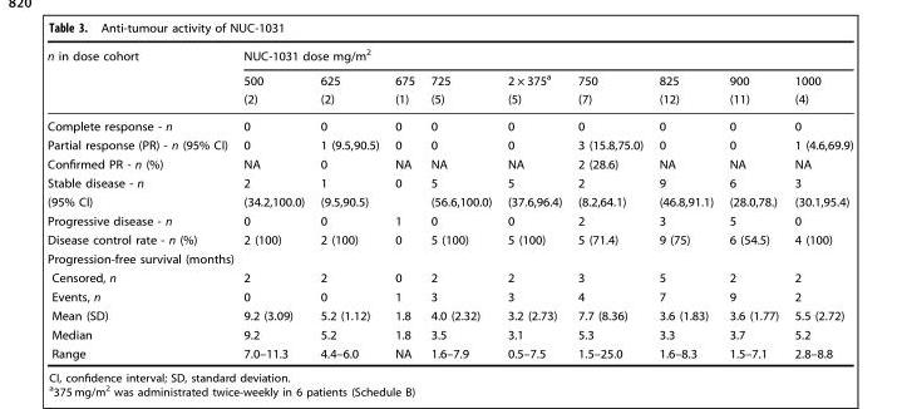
<table><thead><tr><td rowspan="3">n in dose cohort</td><td colspan="9">NUC-1031 dose mg/m<sup>2</sup></td></tr><tr><td rowspan="2">500 (2)</td><td rowspan="2">625 (2)</td><td rowspan="2">675 (1)</td><td rowspan="2">725 (5)</td><td rowspan="2">2 × 375<sup>a</sup> (5)</td><td rowspan="2">750 (7)</td><td rowspan="2">825 (12)</td><td rowspan="2">900 (11)</td><td rowspan="2">1000 (4)</td></tr><tr></tr></thead><tbody><tr><td>Complete response - n</td><td>0</td><td>0</td><td>0</td><td>0</td><td>0</td><td>0</td><td>0</td><td>0</td><td>0</td></tr><tr><td>Partial response (PR) - n (95% CI)</td><td>0</td><td>1 (9.5,90.5)</td><td>0</td><td>0</td><td>0</td><td>3 (15.8,75.0)</td><td>0</td><td>0</td><td>1 (4.6,69.9)</td></tr><tr><td>Confirmed PR - n (%)</td><td>NA</td><td>0</td><td>NA</td><td>NA</td><td>NA</td><td>2 (28.6)</td><td>NA</td><td>NA</td><td>NA</td></tr><tr><td>Stable disease - n</td><td>2</td><td>1</td><td>0</td><td>5</td><td>5</td><td>2</td><td>9</td><td>6</td><td>3</td></tr><tr><td>(95% CI)</td><td>(34.2,100.0)</td><td>(9.5,90.5)</td><td></td><td>(56.6,100.0)</td><td>(37.6,96.4)</td><td>(8.2,64.1)</td><td>(46.8,91.1)</td><td>(28.0,78.)</td><td>(30.1,95.4)</td></tr><tr><td>Progressive disease - n</td><td>0</td><td>0</td><td>1</td><td>0</td><td>0</td><td>2</td><td>3</td><td>5</td><td>0</td></tr><tr><td>Disease control rate - n (%)</td><td>2 (100)</td><td>2 (100)</td><td>0</td><td>5 (100)</td><td>5 (100)</td><td>5 (71.4)</td><td>9 (75)</td><td>6 (54.5)</td><td>4 (100)</td></tr><tr><td colspan="10">Progression-free survival (months)</td></tr><tr><td>Censored, n</td><td>2</td><td>2</td><td>0</td><td>2</td><td>2</td><td>3</td><td>5</td><td>2</td><td>2</td></tr><tr><td>Events, n</td><td>0</td><td>0</td><td>1</td><td>3</td><td>3</td><td>4</td><td>7</td><td>9</td><td>2</td></tr><tr><td>Mean (SD)</td><td>9.2 (3.09)</td><td>5.2 (1.12)</td><td>1.8</td><td>4.0 (2.32)</td><td>3.2 (2.73)</td><td>7.7 (8.36)</td><td>3.6 (1.83)</td><td>3.6 (1.77)</td><td>5.5 (2.72)</td></tr><tr><td>Median</td><td>9.2</td><td>5.2</td><td>1.8</td><td>3.5</td><td>3.1</td><td>5.3</td><td>3.3</td><td>3.7</td><td>5.2</td></tr><tr><td>Range</td><td>7.0–11.3</td><td>4.4–6.0</td><td>NA</td><td>1.6–7.9</td><td>0.5–7.5</td><td>1.5–25.0</td><td>1.6–8.3</td><td>1.5–7.1</td><td>2.8–8.8</td></tr></tbody></table>